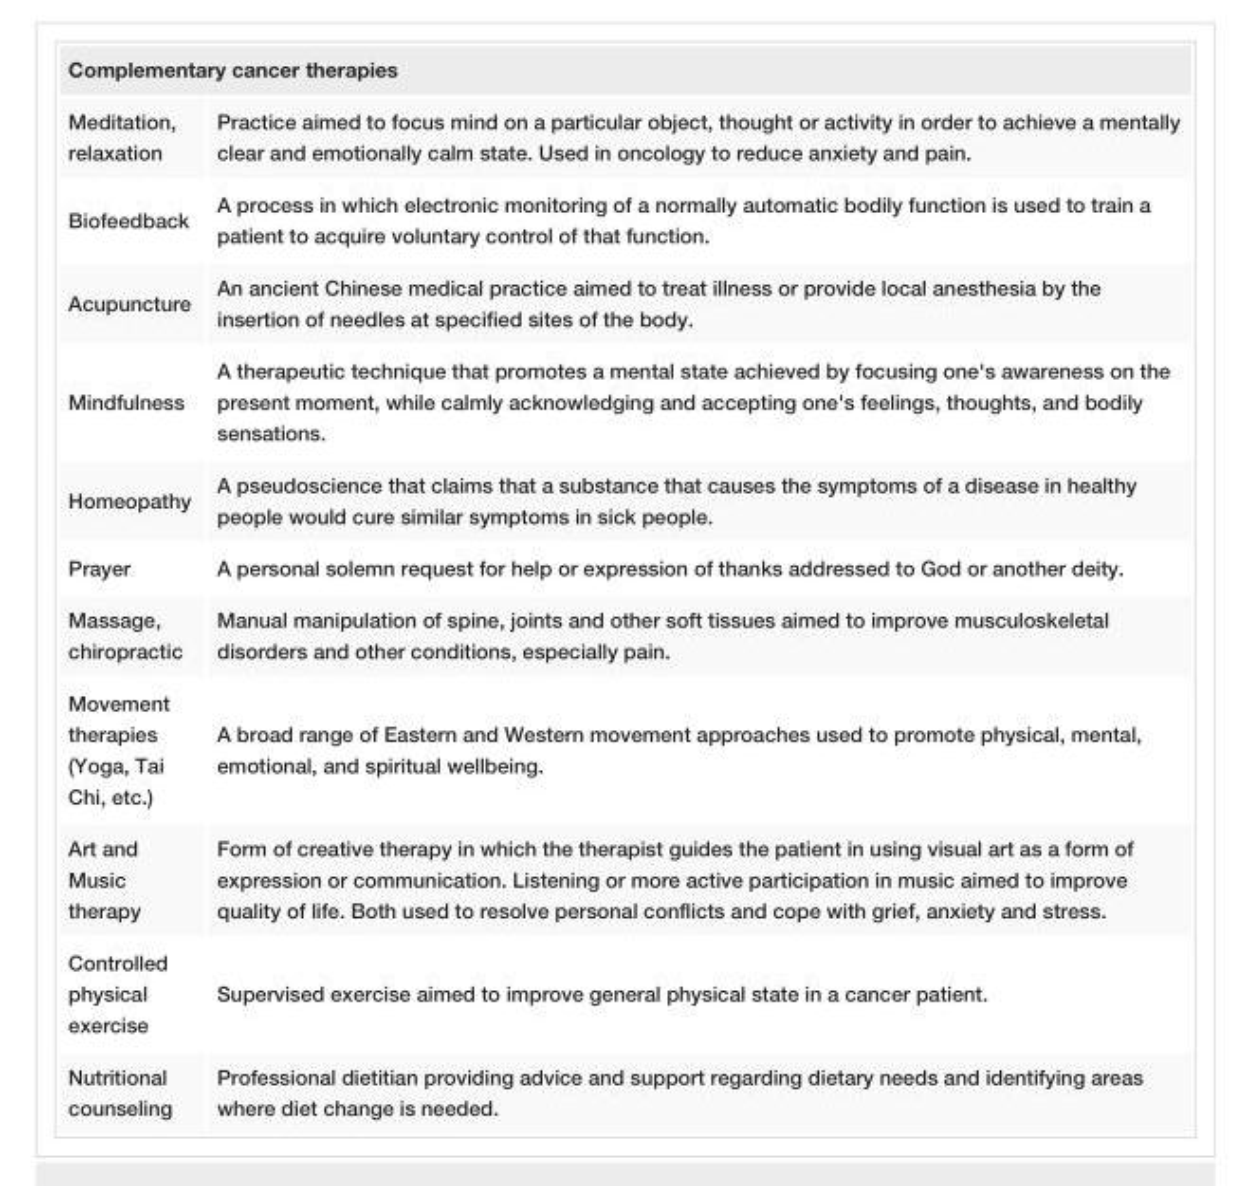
<table><tbody><tr><td colspan="2">Complementary cancer therapies</td></tr><tr><td>Meditation, relaxation</td><td>Practice aimed to focus mind on a particular object, thought or activity in order to achieve a mentally clear and emotionally calm state. Used in oncology to reduce anxiety and pain.</td></tr><tr><td>Biofeedback</td><td>A process in which electronic monitoring of a normally automatic bodily function is used to train a patient to acquire voluntary control of that function.</td></tr><tr><td>Acupuncture</td><td>An ancient Chinese medical practice aimed to treat illness or provide local anesthesia by the insertion of needles at specified sites of the body.</td></tr><tr><td>Mindfulness</td><td>A therapeutic technique that promotes a mental state achieved by focusing one&#x27;s awareness on the present moment, while calmly acknowledging and accepting one&#x27;s feelings, thoughts, and bodily sensations.</td></tr><tr><td>Homeopathy</td><td>A pseudoscience that claims that a substance that causes the symptoms of a disease in healthy people would cure similar symptoms in sick people.</td></tr><tr><td>Prayer</td><td>A personal solemn request for help or expression of thanks addressed to God or another deity.</td></tr><tr><td>Massage, chiropractic</td><td>Manual manipulation of spine, joints and other soft tissues aimed to improve musculoskeletal disorders and other conditions, especially pain.</td></tr><tr><td>Movement therapies (Yoga, Tai Chi, etc.)</td><td>A broad range of Eastern and Western movement approaches used to promote physical, mental, emotional, and spiritual wellbeing.</td></tr><tr><td>Art and Music therapy</td><td>Form of creative therapy in which the therapist guides the patient in using visual art as a form of expression or communication. Listening or more active participation in music aimed to improve quality of life. Both used to resolve personal conflicts and cope with grief, anxiety and stress.</td></tr><tr><td>Controlled physical exercise</td><td>Supervised exercise aimed to improve general physical state in a cancer patient.</td></tr><tr><td>Nutritional counseling</td><td>Professional dietitian providing advice and support regarding dietary needs and identifying areas where diet change is needed.</td></tr></tbody></table>